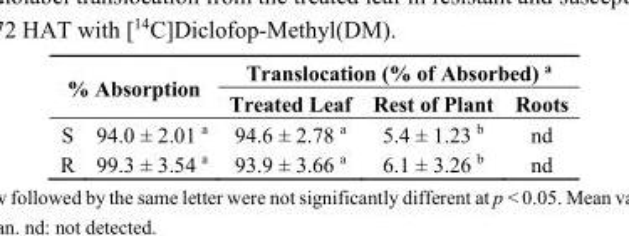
<table><thead><tr><td rowspan="2" colspan="2">% Absorption</td><td colspan="3">Translocation (% of Absorbed) <sup>a</sup></td></tr><tr><td rowspan="2">Treated Leaf 94.6 ± 2.78 <sup>a</sup></td><td rowspan="2">Rest of Plant 5.4 ± 1.23 <sup>b</sup></td><td rowspan="2">Roots nd</td></tr><tr><td>S</td><td>94.0 ± 2.01 <sup>a</sup></td></tr></thead><tbody><tr><td>R</td><td>99.3 ± 3.54 <sup>a</sup></td><td>93.9 ± 3.66 <sup>a</sup></td><td>6.1 ± 3.26 <sup>b</sup></td><td>nd</td></tr></tbody></table>